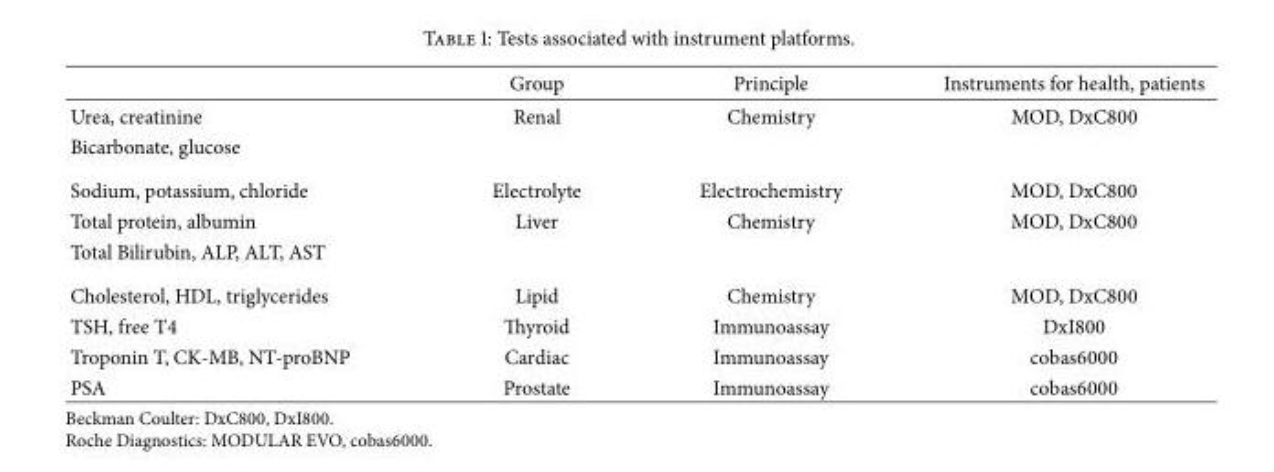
<table><thead><tr><td></td><td>Group</td><td>Principle</td><td>Instruments for health, patients</td></tr></thead><tbody><tr><td>Urea, creatinine</td><td>Renal</td><td>Chemistry</td><td>MOD, DxC800</td></tr><tr><td colspan="4">Bicarbonate, glucose</td></tr><tr><td>Sodium, potassium, chloride</td><td>Electrolyte</td><td>Electrochemistry</td><td>MOD, DxC800</td></tr><tr><td>Total protein, albumin</td><td>Liver</td><td>Chemistry</td><td>MOD, DxC800</td></tr><tr><td colspan="4">Total Bilirubin, ALP, ALT, AST</td></tr><tr><td>Cholesterol, HDL, triglycerides</td><td>Lipid</td><td>Chemistry</td><td>MOD, DxC800</td></tr><tr><td>TSH, free T4</td><td>Thyroid</td><td>Immunoassay</td><td>DxI800</td></tr><tr><td>Troponin T, CK-MB, NT-proBNP</td><td>Cardiac</td><td>Immunoassay</td><td>cobas6000</td></tr><tr><td>PSA</td><td>Prostate</td><td>Immunoassay</td><td>cobas6000</td></tr></tbody></table>